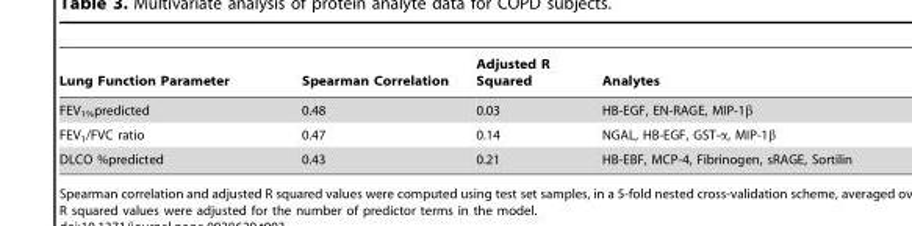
<table><thead><tr><td>Lung Function Parameter</td><td>Spearman Correlation</td><td>Adjusted R Squared</td><td>Analytes</td></tr></thead><tbody><tr><td>FEV<sub>1%</sub>predicted</td><td>0.48</td><td>0.03</td><td>HB-EGF, EN-RAGE, MIP-1β</td></tr><tr><td>FEV<sub>1</sub>/FVC ratio</td><td>0.47</td><td>0.14</td><td>NGAL, HB-EGF, GST-α, MIP-1β</td></tr><tr><td>DLCO %predicted</td><td>0.43</td><td>0.21</td><td>HB-EBF, MCP-4, Fibrinogen, sRAGE, Sortilin</td></tr></tbody></table>